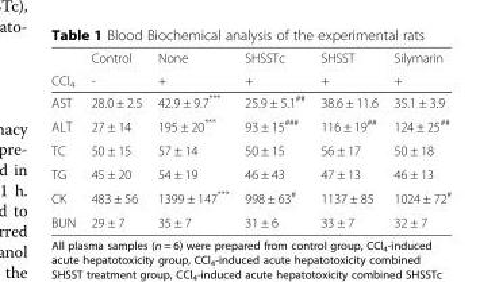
<table><thead><tr><td rowspan="2">CCl<sub>4</sub></td><td rowspan="2">Control -</td><td rowspan="2">None +</td><td rowspan="2">SHSSTc +</td><td rowspan="2">SHSST +</td><td rowspan="2">Silymarin +</td></tr><tr></tr></thead><tbody><tr><td>AST</td><td>28.0 ± 2.5</td><td>42.9 ± 9.7***</td><td>25.9 ± 5.1<sup>##</sup></td><td>38.6 ± 11.6</td><td>35.1 ± 3.9</td></tr><tr><td>ALT</td><td>27 ± 14</td><td>195 ± 20***</td><td>93 ± 15<sup>###</sup></td><td>116 ± 19<sup>##</sup></td><td>124 ± 25<sup>##</sup></td></tr><tr><td>TC</td><td>50 ± 15</td><td>57 ± 14</td><td>50 ± 15</td><td>56 ± 17</td><td>50 ± 18</td></tr><tr><td>TG</td><td>45 ± 20</td><td>54 ± 19</td><td>46 ± 43</td><td>47 ± 13</td><td>46 ± 13</td></tr><tr><td>CK</td><td>483 ± 56</td><td>1399 ± 147***</td><td>998 ± 63<sup>#</sup></td><td>1137 ± 85</td><td>1024 ± 72<sup>#</sup></td></tr><tr><td>BUN</td><td>29 ± 7</td><td>35 ± 7</td><td>31 ± 6</td><td>33 ± 7</td><td>32 ± 7</td></tr></tbody></table>